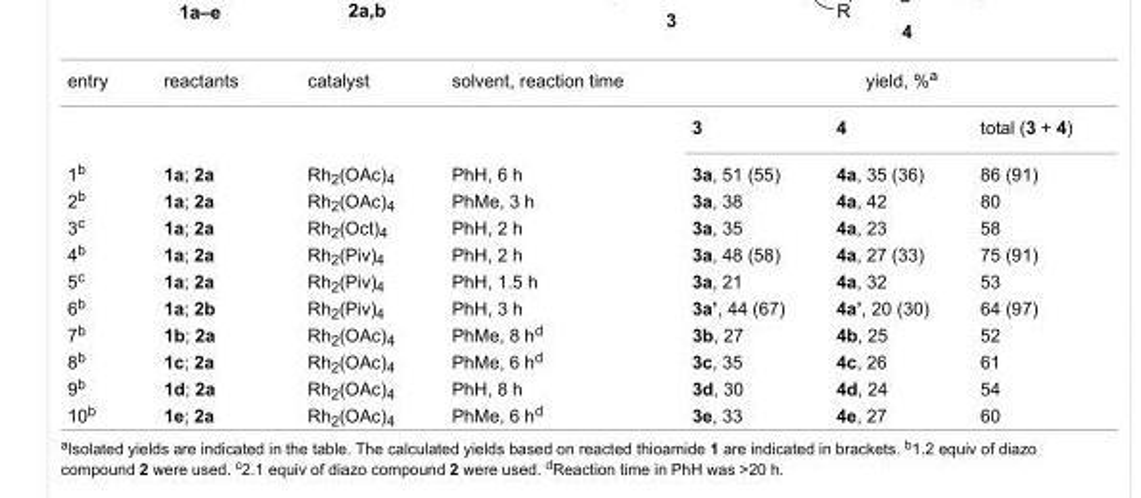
<table><tbody><tr><td rowspan="2">entry</td><td>reactants</td><td>catalyst</td><td>solvent, reaction time</td><td colspan="3">yield, %<sup>a</sup></td></tr><tr><td></td><td></td><td></td><td>3</td><td>4</td><td>total (3 + 4)</td></tr><tr><td>1<sup>b</sup></td><td>1a; 2a</td><td>Rh<sub>2</sub>(OAc)<sub>4</sub></td><td>PhH, 6 h</td><td>3a, 51 (55)</td><td>4a, 35 (36)</td><td>86 (91)</td></tr><tr><td>2<sup>b</sup></td><td>1a; 2a</td><td>Rh<sub>2</sub>(OAc)<sub>4</sub></td><td>PhMe, 3 h</td><td>3a, 38</td><td>4a, 42</td><td>80</td></tr><tr><td>3<sup>c</sup></td><td>1a; 2a</td><td>Rh<sub>2</sub>(Oct)<sub>4</sub></td><td>PhH, 2 h</td><td>3a, 35</td><td>4a, 23</td><td>58</td></tr><tr><td>4<sup>b</sup></td><td>1a; 2a</td><td>Rh<sub>2</sub>(Piv)<sub>4</sub></td><td>PhH, 2 h</td><td>3a, 48 (58)</td><td>4a, 27 (33)</td><td>75 (91)</td></tr><tr><td>5<sup>c</sup></td><td>1a; 2a</td><td>Rh<sub>2</sub>(Piv)<sub>4</sub></td><td>PhH, 1.5 h</td><td>3a, 21</td><td>4a, 32</td><td>53</td></tr><tr><td>6<sup>b</sup></td><td>1a; 2b</td><td>Rh<sub>2</sub>(Piv)<sub>4</sub></td><td>PhH, 3 h</td><td>3a’, 44 (67)</td><td>4a’, 20 (30)</td><td>64 (97)</td></tr><tr><td>7<sup>b</sup></td><td>1b; 2a</td><td>Rh<sub>2</sub>(OAc)<sub>4</sub></td><td>PhMe, 8 h<sup>d</sup></td><td>3b, 27</td><td>4b, 25</td><td>52</td></tr><tr><td>8<sup>b</sup></td><td>1c; 2a</td><td>Rh<sub>2</sub>(OAc)<sub>4</sub></td><td>PhMe, 6 h<sup>d</sup></td><td>3c, 35</td><td>4c, 26</td><td>61</td></tr><tr><td>9<sup>b</sup></td><td>1d; 2a</td><td>Rh<sub>2</sub>(OAc)<sub>4</sub></td><td>PhH, 8 h</td><td>3d, 30</td><td>4d, 24</td><td>54</td></tr><tr><td>10<sup>b</sup></td><td>1e; 2a</td><td>Rh<sub>2</sub>(OAc)<sub>4</sub></td><td>PhMe, 6 h<sup>d</sup></td><td>3e, 33</td><td>4e, 27</td><td>60</td></tr></tbody></table>